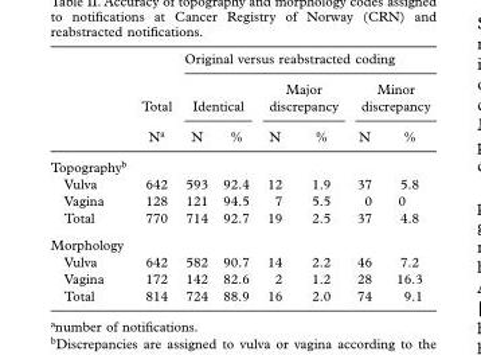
<table><thead><tr><td rowspan="3"></td><td rowspan="3">Total Na</td><td colspan="6">Original versus reabstracted coding</td></tr><tr><td colspan="2">Identical</td><td colspan="2">Major discrepancy</td><td colspan="2">Minor discrepancy</td></tr><tr><td>N</td><td>%</td><td>N</td><td>%</td><td>N</td><td>%</td></tr></thead><tbody><tr><td colspan="8">Topography<sup>b</sup></td></tr><tr><td>Vulva</td><td>642</td><td>593</td><td>92.4</td><td>12</td><td>1.9</td><td>37</td><td>5.8</td></tr><tr><td>Vagina</td><td>128</td><td>121</td><td>94.5</td><td>7</td><td>5.5</td><td>0</td><td>0</td></tr><tr><td>Total</td><td>770</td><td>714</td><td>92.7</td><td>19</td><td>2.5</td><td>37</td><td>4.8</td></tr><tr><td colspan="8">Morphology</td></tr><tr><td>Vulva</td><td>642</td><td>582</td><td>90.7</td><td>14</td><td>2.2</td><td>46</td><td>7.2</td></tr><tr><td>Vagina</td><td>172</td><td>142</td><td>82.6</td><td>2</td><td>1.2</td><td>28</td><td>16.3</td></tr><tr><td>Total</td><td>814</td><td>724</td><td>88.9</td><td>16</td><td>2.0</td><td>74</td><td>9.1</td></tr></tbody></table>